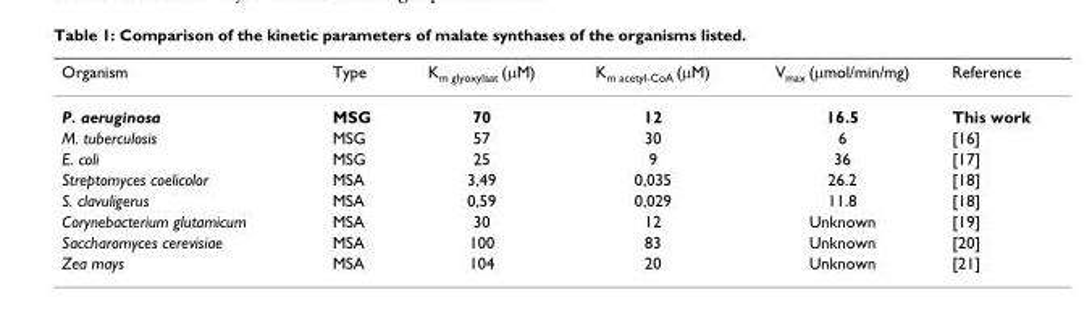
<table><thead><tr><td>Organism</td><td>Type</td><td>K<sub>m glyoxylaat</sub> (μM)</td><td>K<sub>m acetyl-CoA</sub> (μM)</td><td>V<sub>max</sub> (μmol/min/mg)</td><td>Reference</td></tr></thead><tbody><tr><td>P. aeruginosa</td><td>MSG</td><td>70</td><td>12</td><td>16.5</td><td>This work</td></tr><tr><td>M. tuberculosis</td><td>MSG</td><td>57</td><td>30</td><td>6</td><td>[16]</td></tr><tr><td>E. coli</td><td>MSG</td><td>25</td><td>9</td><td>36</td><td>[17]</td></tr><tr><td>Streptomyces coelicolor</td><td>MSA</td><td>3,49</td><td>0,035</td><td>26.2</td><td>[18]</td></tr><tr><td>S. clavuligerus</td><td>MSA</td><td>0,59</td><td>0,029</td><td>11.8</td><td>[18]</td></tr><tr><td>Corynebacterium glutamicum</td><td>MSA</td><td>30</td><td>12</td><td>Unknown</td><td>[19]</td></tr><tr><td>Saccharomyces cerevisiae</td><td>MSA</td><td>100</td><td>83</td><td>Unknown</td><td>[20]</td></tr><tr><td>Zea mays</td><td>MSA</td><td>104</td><td>20</td><td>Unknown</td><td>[21]</td></tr></tbody></table>